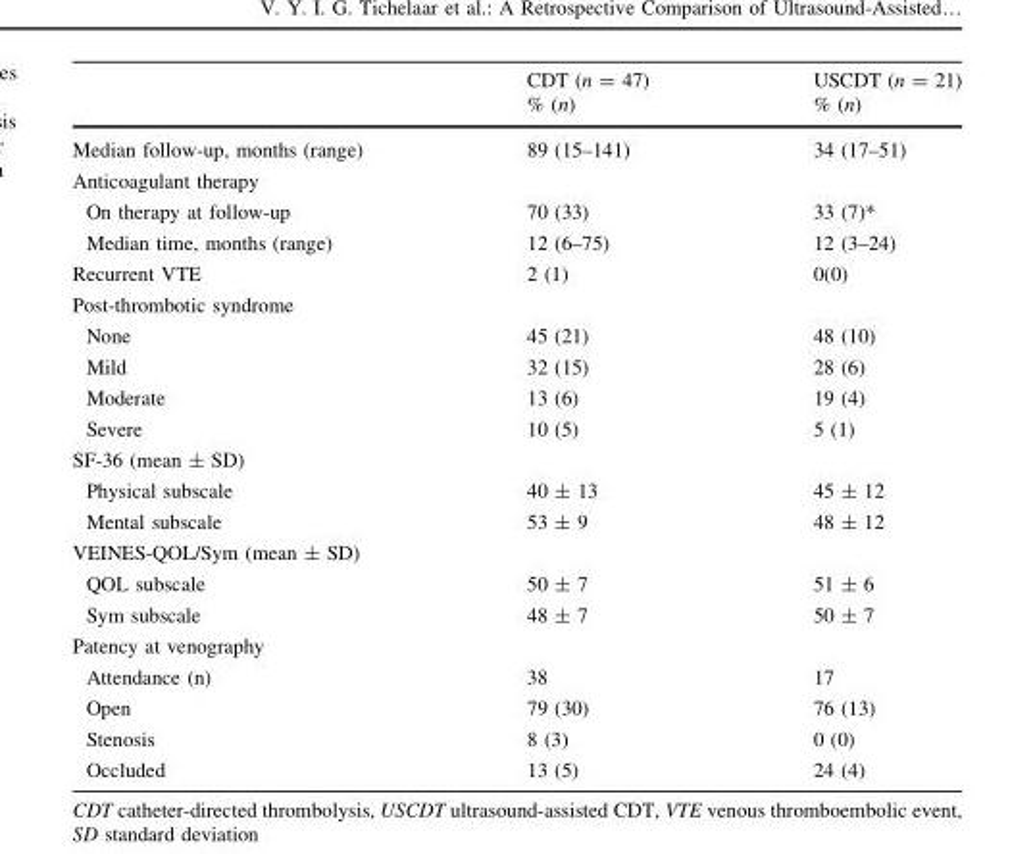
<table><thead><tr><td rowspan="2"></td><td rowspan="2">CDT (n = 47) % (n)</td><td rowspan="2">USCDT (n = 21) % (n)</td></tr><tr></tr></thead><tbody><tr><td>Median follow-up, months (range)</td><td>89 (15–141)</td><td>34 (17–51)</td></tr><tr><td colspan="3">Anticoagulant therapy</td></tr><tr><td>On therapy at follow-up</td><td>70 (33)</td><td>33 (7)*</td></tr><tr><td>Median time, months (range)</td><td>12 (6–75)</td><td>12 (3–24)</td></tr><tr><td>Recurrent VTE</td><td>2 (1)</td><td>0(0)</td></tr><tr><td colspan="3">Post-thrombotic syndrome</td></tr><tr><td>None</td><td>45 (21)</td><td>48 (10)</td></tr><tr><td>Mild</td><td>32 (15)</td><td>28 (6)</td></tr><tr><td>Moderate</td><td>13 (6)</td><td>19 (4)</td></tr><tr><td>Severe</td><td>10 (5)</td><td>5 (1)</td></tr><tr><td colspan="3">SF-36 (mean ± SD)</td></tr><tr><td>Physical subscale</td><td>40 ± 13</td><td>45 ± 12</td></tr><tr><td>Mental subscale</td><td>53 ± 9</td><td>48 ± 12</td></tr><tr><td colspan="3">VEINES-QOL/Sym (mean ± SD)</td></tr><tr><td>QOL subscale</td><td>50 ± 7</td><td>51 ± 6</td></tr><tr><td>Sym subscale</td><td>48 ± 7</td><td>50 ± 7</td></tr><tr><td colspan="3">Patency at venography</td></tr><tr><td>Attendance (n)</td><td>38</td><td>17</td></tr><tr><td>Open</td><td>79 (30)</td><td>76 (13)</td></tr><tr><td>Stenosis</td><td>8 (3)</td><td>0 (0)</td></tr><tr><td>Occluded</td><td>13 (5)</td><td>24 (4)</td></tr></tbody></table>